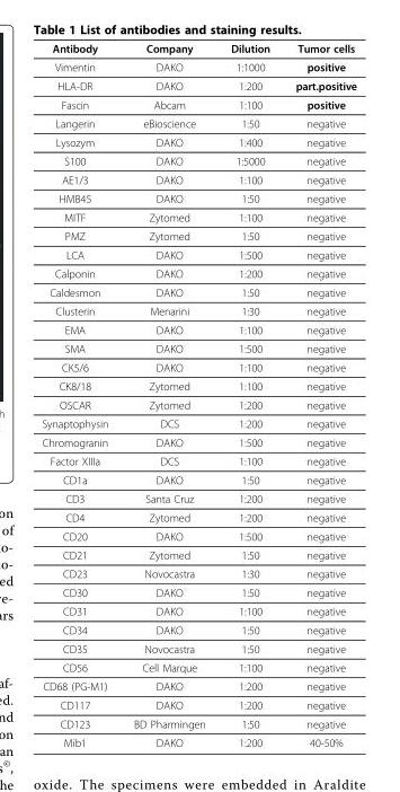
<table><thead><tr><td>Antibody</td><td>Company</td><td>Dilution</td><td>Tumor cells</td></tr></thead><tbody><tr><td>Vimentin</td><td>DAKO</td><td>1:1000</td><td>positive</td></tr><tr><td>HLA-DR</td><td>DAKO</td><td>1:200</td><td>part.positive</td></tr><tr><td>Fascin</td><td>Abcam</td><td>1:100</td><td>positive</td></tr><tr><td>Langerin</td><td>eBioscience</td><td>1:50</td><td>negative</td></tr><tr><td>Lysozym</td><td>DAKO</td><td>1:400</td><td>negative</td></tr><tr><td>S100</td><td>DAKO</td><td>1:5000</td><td>negative</td></tr><tr><td>AE1/3</td><td>DAKO</td><td>1:100</td><td>negative</td></tr><tr><td>HMB45</td><td>DAKO</td><td>1:50</td><td>negative</td></tr><tr><td>MITF</td><td>Zytomed</td><td>1:100</td><td>negative</td></tr><tr><td>PMZ</td><td>Zytomed</td><td>1:50</td><td>negative</td></tr><tr><td>LCA</td><td>DAKO</td><td>1:500</td><td>negative</td></tr><tr><td>Calponin</td><td>DAKO</td><td>1:200</td><td>negative</td></tr><tr><td>Caldesmon</td><td>DAKO</td><td>1:50</td><td>negative</td></tr><tr><td>Clusterin</td><td>Menarini</td><td>1:30</td><td>negative</td></tr><tr><td>EMA</td><td>DAKO</td><td>1:100</td><td>negative</td></tr><tr><td>SMA</td><td>DAKO</td><td>1:500</td><td>negative</td></tr><tr><td>CK5/6</td><td>DAKO</td><td>1:100</td><td>negative</td></tr><tr><td>CK8/18</td><td>Zytomed</td><td>1:100</td><td>negative</td></tr><tr><td>OSCAR</td><td>Zytomed</td><td>1:200</td><td>negative</td></tr><tr><td>Synaptophysin</td><td>DCS</td><td>1:200</td><td>negative</td></tr><tr><td>Chromogranin</td><td>DAKO</td><td>1:500</td><td>negative</td></tr><tr><td>Factor XIIIa</td><td>DCS</td><td>1:100</td><td>negative</td></tr><tr><td>CD1a</td><td>DAKO</td><td>1:50</td><td>negative</td></tr><tr><td>CD3</td><td>Santa Cruz</td><td>1:200</td><td>negative</td></tr><tr><td>CD4</td><td>Zytomed</td><td>1:200</td><td>negative</td></tr><tr><td>CD20</td><td>DAKO</td><td>1:500</td><td>negative</td></tr><tr><td>CD21</td><td>Zytomed</td><td>1:50</td><td>negative</td></tr><tr><td>CD23</td><td>Novocastra</td><td>1:30</td><td>negative</td></tr><tr><td>CD30</td><td>DAKO</td><td>1:50</td><td>negative</td></tr><tr><td>CD31</td><td>DAKO</td><td>1:100</td><td>negative</td></tr><tr><td>CD34</td><td>DAKO</td><td>1:50</td><td>negative</td></tr><tr><td>CD35</td><td>Novocastra</td><td>1:50</td><td>negative</td></tr><tr><td>CD56</td><td>Cell Marque</td><td>1:100</td><td>negative</td></tr><tr><td>CD68 (PG-M1)</td><td>DAKO</td><td>1:200</td><td>negative</td></tr><tr><td>CD117</td><td>DAKO</td><td>1:200</td><td>negative</td></tr><tr><td>CD123</td><td>BD Pharmingen</td><td>1:50</td><td>negative</td></tr><tr><td>Mib1</td><td>DAKO</td><td>1:200</td><td>40-50%</td></tr></tbody></table>